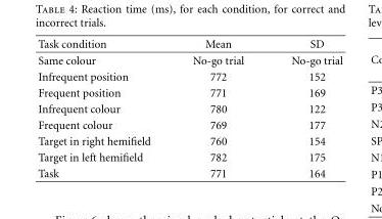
<table><thead><tr><td>Task condition</td><td>Mean</td><td>SD</td></tr></thead><tbody><tr><td>Same colour</td><td>No-go trial</td><td>No-go trial</td></tr><tr><td>Infrequent position</td><td>772</td><td>152</td></tr><tr><td>Frequent position</td><td>771</td><td>169</td></tr><tr><td>Infrequent colour</td><td>780</td><td>122</td></tr><tr><td>Frequent colour</td><td>769</td><td>177</td></tr><tr><td>Target in right hemifield</td><td>760</td><td>154</td></tr><tr><td>Target in left hemifield</td><td>782</td><td>175</td></tr><tr><td>Task</td><td>771</td><td>164</td></tr></tbody></table>